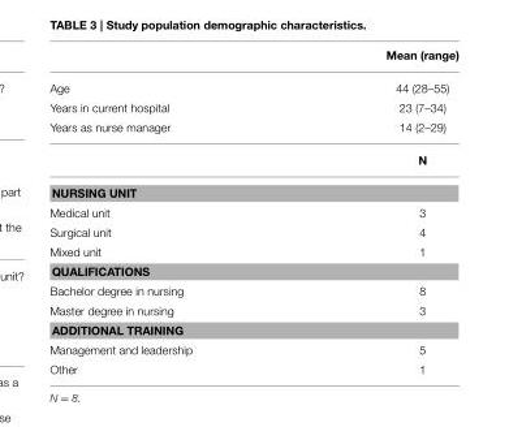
<table><thead><tr><td></td><td>Mean (range)</td></tr></thead><tbody><tr><td>Age</td><td>44 (28–55)</td></tr><tr><td>Years in current hospital</td><td>23 (7–34)</td></tr><tr><td rowspan="2">Years as nurse manager</td><td>14 (2–29)</td></tr><tr><td>N</td></tr><tr><td colspan="2">NURSING UNIT</td></tr><tr><td>Medical unit</td><td>3</td></tr><tr><td>Surgical unit</td><td>4</td></tr><tr><td>Mixed unit</td><td>1</td></tr><tr><td colspan="2">QUALIFICATIONS</td></tr><tr><td>Bachelor degree in nursing</td><td>8</td></tr><tr><td>Master degree in nursing</td><td>3</td></tr><tr><td colspan="2">ADDITIONAL TRAINING</td></tr><tr><td>Management and leadership</td><td>5</td></tr><tr><td>Other</td><td>1</td></tr></tbody></table>